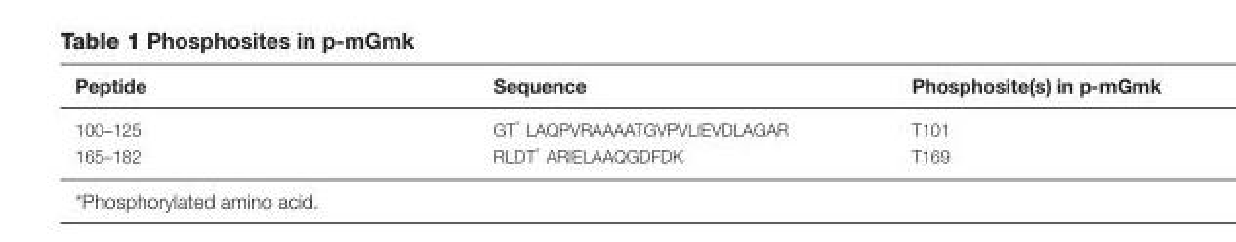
<table><thead><tr><td>Peptide</td><td>Sequence</td><td>Phosphosite(s) in p-mGmk</td></tr></thead><tbody><tr><td>100–125</td><td>GT* LAQPVRAAAATGVPVLIEVDLAGAR</td><td>T101</td></tr><tr><td>165–182</td><td>RLDT* ARIELAAQGDFDK</td><td>T169</td></tr></tbody></table>